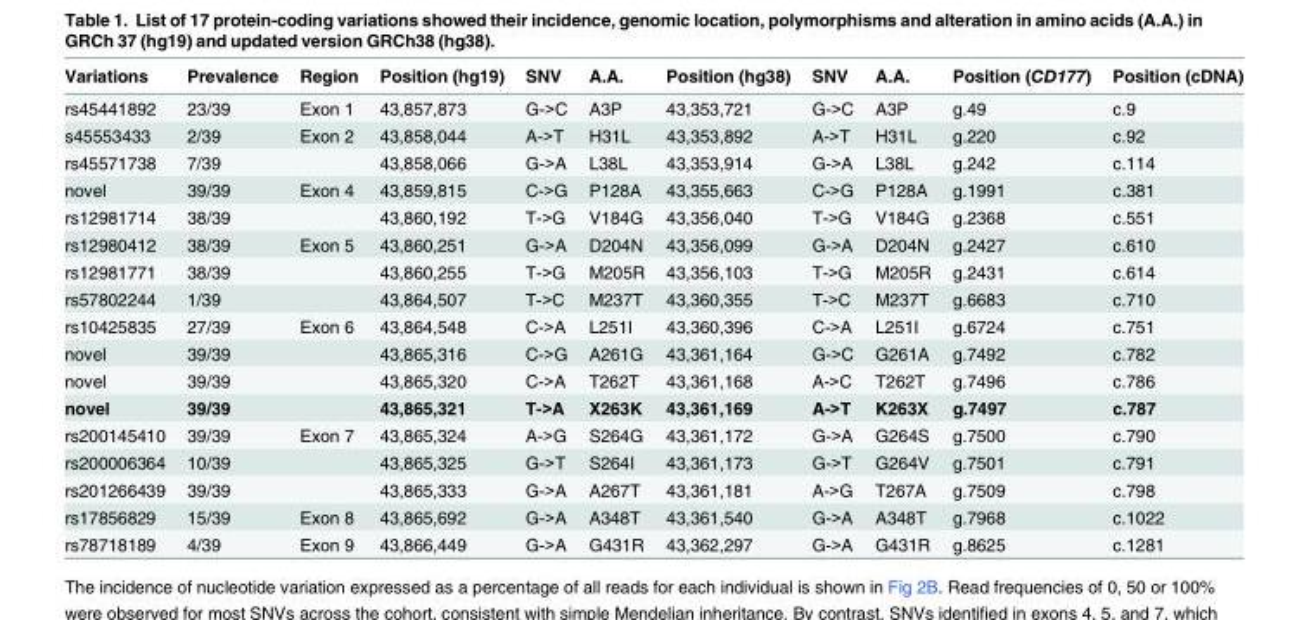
<table><thead><tr><td>Variations</td><td>Prevalence</td><td>Region</td><td>Position (hg19)</td><td>SNV</td><td>A.A.</td><td>Position (hg38)</td><td>SNV</td><td>A.A.</td><td>Position (CD177)</td><td>Position (cDNA)</td></tr></thead><tbody><tr><td>rs45441892</td><td>23/39</td><td>Exon 1</td><td>43,857,873</td><td>G-&gt;C</td><td>A3P</td><td>43,353,721</td><td>G-&gt;C</td><td>A3P</td><td>g.49</td><td>c.9</td></tr><tr><td>s45553433</td><td>2/39</td><td>Exon 2</td><td>43,858,044</td><td>A-&gt;T</td><td>H31L</td><td>43,353,892</td><td>A-&gt;T</td><td>H31L</td><td>g.220</td><td>c.92</td></tr><tr><td>rs45571738</td><td>7/39</td><td></td><td>43,858,066</td><td>G-&gt;A</td><td>L38L</td><td>43,353,914</td><td>G-&gt;A</td><td>L38L</td><td>g.242</td><td>c.114</td></tr><tr><td>novel</td><td>39/39</td><td>Exon 4</td><td>43,859,815</td><td>C-&gt;G</td><td>P128A</td><td>43,355,663</td><td>C-&gt;G</td><td>P128A</td><td>g.1991</td><td>c.381</td></tr><tr><td>rs12981714</td><td>38/39</td><td></td><td>43,860,192</td><td>T-&gt;G</td><td>V184G</td><td>43,356,040</td><td>T-&gt;G</td><td>V184G</td><td>g.2368</td><td>c.551</td></tr><tr><td>rs12980412</td><td>38/39</td><td>Exon 5</td><td>43,860,251</td><td>G-&gt;A</td><td>D204N</td><td>43,356,099</td><td>G-&gt;A</td><td>D204N</td><td>g.2427</td><td>c.610</td></tr><tr><td>rs12981771</td><td>38/39</td><td></td><td>43,860,255</td><td>T-&gt;G</td><td>M205R</td><td>43,356,103</td><td>T-&gt;G</td><td>M205R</td><td>g.2431</td><td>c.614</td></tr><tr><td>rs57802244</td><td>1/39</td><td></td><td>43,864,507</td><td>T-&gt;C</td><td>M237T</td><td>43,360,355</td><td>T-&gt;C</td><td>M237T</td><td>g.6683</td><td>c.710</td></tr><tr><td>rs10425835</td><td>27/39</td><td>Exon 6</td><td>43,864,548</td><td>C-&gt;A</td><td>L251I</td><td>43,360,396</td><td>C-&gt;A</td><td>L251I</td><td>g.6724</td><td>c.751</td></tr><tr><td>novel</td><td>39/39</td><td></td><td>43,865,316</td><td>C-&gt;G</td><td>A261G</td><td>43,361,164</td><td>G-&gt;C</td><td>G261A</td><td>g.7492</td><td>c.782</td></tr><tr><td>novel</td><td>39/39</td><td></td><td>43,865,320</td><td>C-&gt;A</td><td>T262T</td><td>43,361,168</td><td>A-&gt;C</td><td>T262T</td><td>g.7496</td><td>c.786</td></tr><tr><td>novel</td><td>39/39</td><td></td><td>43,865,321</td><td>T-&gt;A</td><td>X263K</td><td>43,361,169</td><td>A-&gt;T</td><td>K263X</td><td>g.7497</td><td>c.787</td></tr><tr><td>rs200145410</td><td>39/39</td><td>Exon 7</td><td>43,865,324</td><td>A-&gt;G</td><td>S264G</td><td>43,361,172</td><td>G-&gt;A</td><td>G264S</td><td>g.7500</td><td>c.790</td></tr><tr><td>rs200006364</td><td>10/39</td><td></td><td>43,865,325</td><td>G-&gt;T</td><td>S264I</td><td>43,361,173</td><td>G-&gt;T</td><td>G264V</td><td>g.7501</td><td>c.791</td></tr><tr><td>rs201266439</td><td>39/39</td><td></td><td>43,865,333</td><td>G-&gt;A</td><td>A267T</td><td>43,361,181</td><td>A-&gt;G</td><td>T267A</td><td>g.7509</td><td>c.798</td></tr><tr><td>rs17856829</td><td>15/39</td><td>Exon 8</td><td>43,865,692</td><td>G-&gt;A</td><td>A348T</td><td>43,361,540</td><td>G-&gt;A</td><td>A348T</td><td>g.7968</td><td>c.1022</td></tr><tr><td>rs78718189</td><td>4/39</td><td>Exon 9</td><td>43,866,449</td><td>G-&gt;A</td><td>G431R</td><td>43,362,297</td><td>G-&gt;A</td><td>G431R</td><td>g.8625</td><td>c.1281</td></tr></tbody></table>